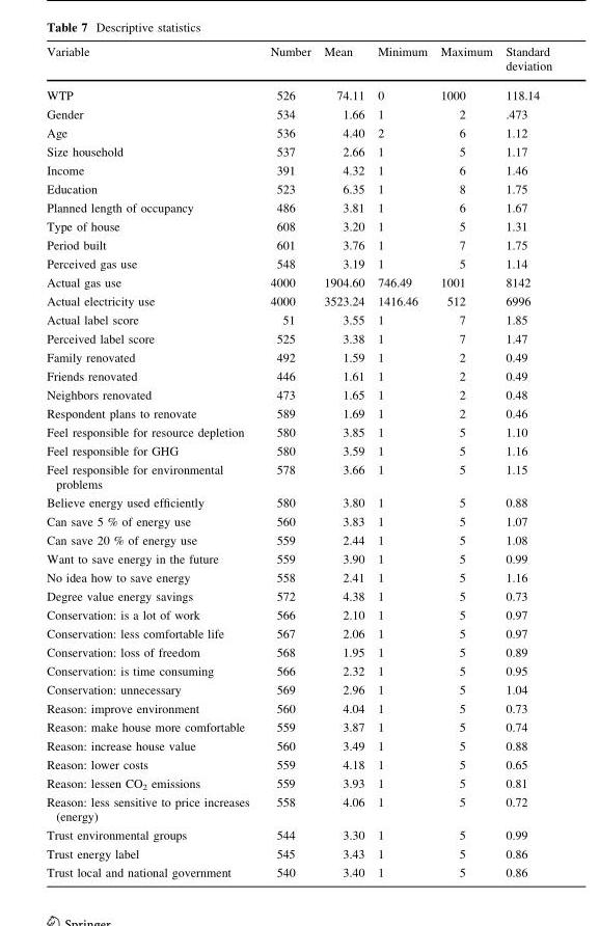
<table><thead><tr><td>Variable</td><td>Number</td><td>Mean</td><td>Minimum</td><td>Maximum</td><td>Standard deviation</td></tr></thead><tbody><tr><td>WTP</td><td>526</td><td>74.11</td><td>0</td><td>1000</td><td>118.14</td></tr><tr><td>Gender</td><td>534</td><td>1.66</td><td>1</td><td>2</td><td>.473</td></tr><tr><td>Age</td><td>536</td><td>4.40</td><td>2</td><td>6</td><td>1.12</td></tr><tr><td>Size household</td><td>537</td><td>2.66</td><td>1</td><td>5</td><td>1.17</td></tr><tr><td>Income</td><td>391</td><td>4.32</td><td>1</td><td>6</td><td>1.46</td></tr><tr><td>Education</td><td>523</td><td>6.35</td><td>1</td><td>8</td><td>1.75</td></tr><tr><td>Planned length of occupancy</td><td>486</td><td>3.81</td><td>1</td><td>6</td><td>1.67</td></tr><tr><td>Type of house</td><td>608</td><td>3.20</td><td>1</td><td>5</td><td>1.31</td></tr><tr><td>Period built</td><td>601</td><td>3.76</td><td>1</td><td>7</td><td>1.75</td></tr><tr><td>Perceived gas use</td><td>548</td><td>3.19</td><td>1</td><td>5</td><td>1.14</td></tr><tr><td>Actual gas use</td><td>4000</td><td>1904.60</td><td>746.49</td><td>1001</td><td>8142</td></tr><tr><td>Actual electricity use</td><td>4000</td><td>3523.24</td><td>1416.46</td><td>512</td><td>6996</td></tr><tr><td>Actual label score</td><td>51</td><td>3.55</td><td>1</td><td>7</td><td>1.85</td></tr><tr><td>Perceived label score</td><td>525</td><td>3.38</td><td>1</td><td>7</td><td>1.47</td></tr><tr><td>Family renovated</td><td>492</td><td>1.59</td><td>1</td><td>2</td><td>0.49</td></tr><tr><td>Friends renovated</td><td>446</td><td>1.61</td><td>1</td><td>2</td><td>0.49</td></tr><tr><td>Neighbors renovated</td><td>473</td><td>1.65</td><td>1</td><td>2</td><td>0.48</td></tr><tr><td>Respondent plans to renovate</td><td>589</td><td>1.69</td><td>1</td><td>2</td><td>0.46</td></tr><tr><td>Feel responsible for resource depletion</td><td>580</td><td>3.85</td><td>1</td><td>5</td><td>1.10</td></tr><tr><td>Feel responsible for GHG</td><td>580</td><td>3.59</td><td>1</td><td>5</td><td>1.16</td></tr><tr><td>Feel responsible for environmental problems</td><td>578</td><td>3.66</td><td>1</td><td>5</td><td>1.15</td></tr><tr><td>Believe energy used efficiently</td><td>580</td><td>3.80</td><td>1</td><td>5</td><td>0.88</td></tr><tr><td>Can save 5 % of energy use</td><td>560</td><td>3.83</td><td>1</td><td>5</td><td>1.07</td></tr><tr><td>Can save 20 % of energy use</td><td>559</td><td>2.44</td><td>1</td><td>5</td><td>1.08</td></tr><tr><td>Want to save energy in the future</td><td>559</td><td>3.90</td><td>1</td><td>5</td><td>0.99</td></tr><tr><td>No idea how to save energy</td><td>558</td><td>2.41</td><td>1</td><td>5</td><td>1.16</td></tr><tr><td>Degree value energy savings</td><td>572</td><td>4.38</td><td>1</td><td>5</td><td>0.73</td></tr><tr><td>Conservation: is a lot of work</td><td>566</td><td>2.10</td><td>1</td><td>5</td><td>0.97</td></tr><tr><td>Conservation: less comfortable life</td><td>567</td><td>2.06</td><td>1</td><td>5</td><td>0.97</td></tr><tr><td>Conservation: loss of freedom</td><td>568</td><td>1.95</td><td>1</td><td>5</td><td>0.89</td></tr><tr><td>Conservation: is time consuming</td><td>566</td><td>2.32</td><td>1</td><td>5</td><td>0.95</td></tr><tr><td>Conservation: unnecessary</td><td>569</td><td>2.96</td><td>1</td><td>5</td><td>1.04</td></tr><tr><td>Reason: improve environment</td><td>560</td><td>4.04</td><td>1</td><td>5</td><td>0.73</td></tr><tr><td>Reason: make house more comfortable</td><td>559</td><td>3.87</td><td>1</td><td>5</td><td>0.74</td></tr><tr><td>Reason: increase house value</td><td>560</td><td>3.49</td><td>1</td><td>5</td><td>0.88</td></tr><tr><td>Reason: lower costs</td><td>559</td><td>4.18</td><td>1</td><td>5</td><td>0.65</td></tr><tr><td>Reason: lessen CO<sub>2</sub> emissions</td><td>559</td><td>3.93</td><td>1</td><td>5</td><td>0.81</td></tr><tr><td>Reason: less sensitive to price increases (energy)</td><td>558</td><td>4.06</td><td>1</td><td>5</td><td>0.72</td></tr><tr><td>Trust environmental groups</td><td>544</td><td>3.30</td><td>1</td><td>5</td><td>0.99</td></tr><tr><td>Trust energy label</td><td>545</td><td>3.43</td><td>1</td><td>5</td><td>0.86</td></tr><tr><td>Trust local and national government</td><td>540</td><td>3.40</td><td>1</td><td>5</td><td>0.86</td></tr></tbody></table>